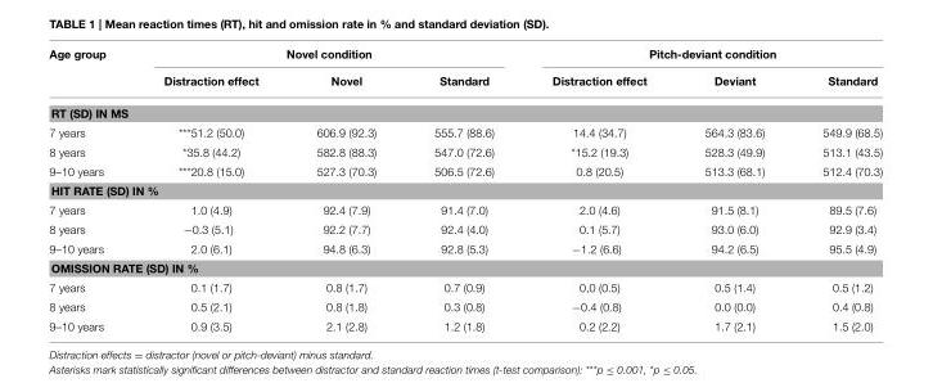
<table><thead><tr><td rowspan="2">Age group</td><td colspan="3">Novel condition</td><td colspan="3">Pitch-deviant condition</td></tr><tr><td>Distraction effect</td><td>Novel</td><td>Standard</td><td>Distraction effect</td><td>Deviant</td><td>Standard</td></tr></thead><tbody><tr><td colspan="7">RT (SD) IN MS</td></tr><tr><td>7 years</td><td>***51.2 (50.0)</td><td>606.9 (92.3)</td><td>555.7 (88.6)</td><td>14.4 (34.7)</td><td>564.3 (83.6)</td><td>549.9 (68.5)</td></tr><tr><td>8 years</td><td>*35.8 (44.2)</td><td>582.8 (88.3)</td><td>547.0 (72.6)</td><td>*15.2 (19.3)</td><td>528.3 (49.9)</td><td>513.1 (43.5)</td></tr><tr><td>9–10 years</td><td>***20.8 (15.0)</td><td>527.3 (70.3)</td><td>506.5 (72.6)</td><td>0.8 (20.5)</td><td>513.3 (68.1)</td><td>512.4 (70.3)</td></tr><tr><td colspan="7">HIT RATE (SD) IN %</td></tr><tr><td>7 years</td><td>1.0 (4.9)</td><td>92.4 (7.9)</td><td>91.4 (7.0)</td><td>2.0 (4.6)</td><td>91.5 (8.1)</td><td>89.5 (7.6)</td></tr><tr><td>8 years</td><td>−0.3 (5.1)</td><td>92.2 (7.7)</td><td>92.4 (4.0)</td><td>0.1 (5.7)</td><td>93.0 (6.0)</td><td>92.9 (3.4)</td></tr><tr><td>9–10 years</td><td>2.0 (6.1)</td><td>94.8 (6.3)</td><td>92.8 (5.3)</td><td>−1.2 (6.6)</td><td>94.2 (6.5)</td><td>95.5 (4.9)</td></tr><tr><td colspan="7">OMISSION RATE (SD) IN %</td></tr><tr><td>7 years</td><td>0.1 (1.7)</td><td>0.8 (1.7)</td><td>0.7 (0.9)</td><td>0,0 (0.5)</td><td>0.5 (1.4)</td><td>0.5 (1.2)</td></tr><tr><td>8 years</td><td>0.5 (2.1)</td><td>0.8 (1.8)</td><td>0.3 (0.8)</td><td>−0.4 (0.8)</td><td>0.0 (0.0)</td><td>0.4 (0.8)</td></tr><tr><td>9–10 years</td><td>0.9 (3.5)</td><td>2.1 (2.8)</td><td>1.2 (1.8)</td><td>0.2 (2.2)</td><td>1.7 (2.1)</td><td>1.5 (2.0)</td></tr></tbody></table>